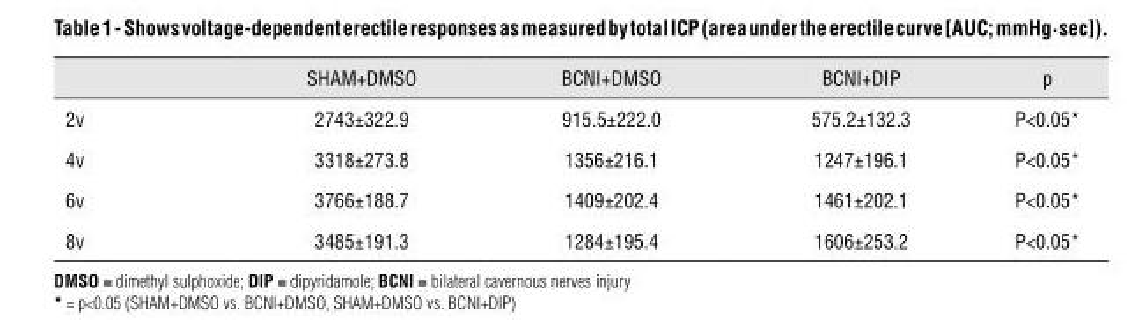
<table><thead><tr><td></td><td>SHAM+DMSO</td><td>BCNI+DMSO</td><td>BCNI+DIP</td><td>p</td></tr></thead><tbody><tr><td>2v</td><td>2743±322.9</td><td>915.5±222.0</td><td>575.2±132.3</td><td>P&lt;0.05*</td></tr><tr><td>4v</td><td>3318±273.8</td><td>1356±216.1</td><td>1247±196.1</td><td>P&lt;0.05*</td></tr><tr><td>6v</td><td>3766±188.7</td><td>1409±202.4</td><td>1461±202.1</td><td>P&lt;0.05*</td></tr><tr><td>8v</td><td>3485±191.3</td><td>1284±195.4</td><td>1606±253.2</td><td>P&lt;0.05*</td></tr></tbody></table>